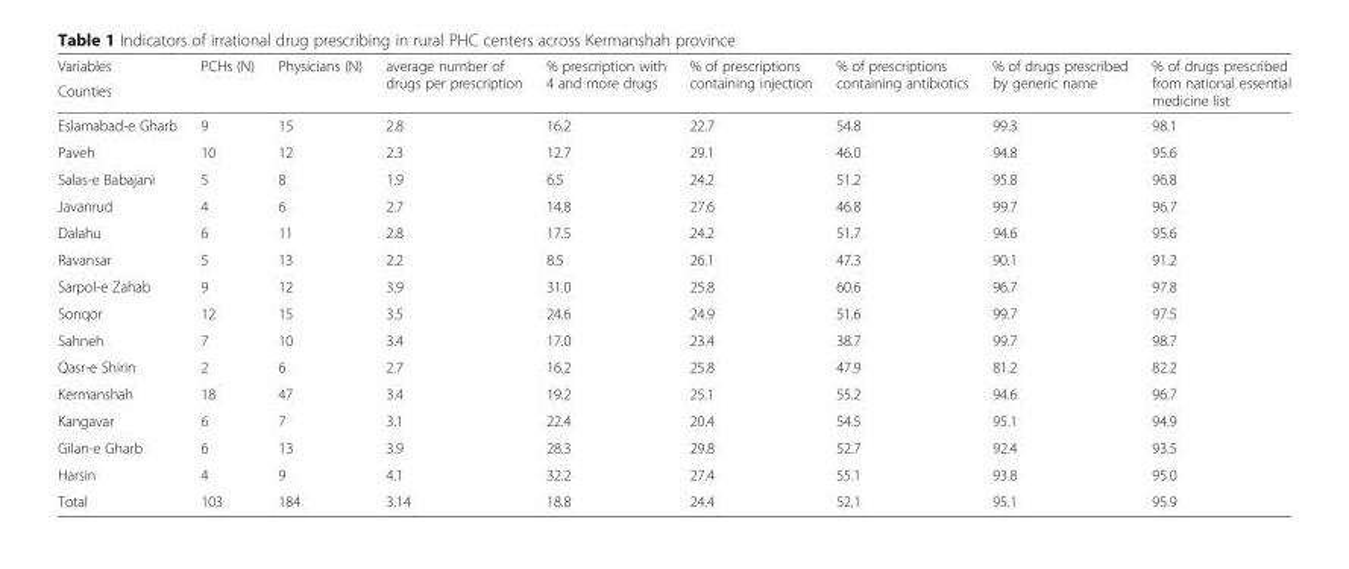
<table><thead><tr><td rowspan="2">Variables Counties</td><td rowspan="2">PCHs (N)</td><td rowspan="2">Physicians (N)</td><td rowspan="2">average number of drugs per prescription</td><td rowspan="2">% prescription with 4 and more drugs</td><td rowspan="2">% of prescriptions containing injection</td><td rowspan="2">% of prescriptions containing antibiotics</td><td rowspan="2">% of drugs prescribed by generic name</td><td rowspan="2">% of drugs prescribed from national essential medicine list</td></tr><tr></tr></thead><tbody><tr><td>Eslamabad-e Gharb</td><td>9</td><td>15</td><td>2.8</td><td>16.2</td><td>22.7</td><td>54.8</td><td>99.3</td><td>98.1</td></tr><tr><td>Paveh</td><td>10</td><td>12</td><td>2.3</td><td>12.7</td><td>29.1</td><td>46.0</td><td>94.8</td><td>95.6</td></tr><tr><td>Salas-e Babajani</td><td>5</td><td>8</td><td>1.9</td><td>6.5</td><td>24.2</td><td>51.2</td><td>95.8</td><td>96.8</td></tr><tr><td>Javanrud</td><td>4</td><td>6</td><td>2.7</td><td>14.8</td><td>27.6</td><td>46.8</td><td>99.7</td><td>96.7</td></tr><tr><td>Dalahu</td><td>6</td><td>11</td><td>2.8</td><td>17.5</td><td>24.2</td><td>51.7</td><td>94.6</td><td>95.6</td></tr><tr><td>Ravansar</td><td>5</td><td>13</td><td>2.2</td><td>8.5</td><td>26.1</td><td>47.3</td><td>90.1</td><td>91.2</td></tr><tr><td>Sarpol-e Zahab</td><td>9</td><td>12</td><td>3.9</td><td>31.0</td><td>25.8</td><td>60.6</td><td>96.7</td><td>97.8</td></tr><tr><td>Sonqor</td><td>12</td><td>15</td><td>3.5</td><td>24.6</td><td>24.9</td><td>51.6</td><td>99.7</td><td>97.5</td></tr><tr><td>Sahneh</td><td>7</td><td>10</td><td>3.4</td><td>17.0</td><td>23.4</td><td>38.7</td><td>99.7</td><td>98.7</td></tr><tr><td>Qasr-e Shirin</td><td>2</td><td>6</td><td>2.7</td><td>16.2</td><td>25.8</td><td>47.9</td><td>81.2</td><td>82.2</td></tr><tr><td>Kermanshah</td><td>18</td><td>47</td><td>3.4</td><td>19.2</td><td>25.1</td><td>55.2</td><td>94.6</td><td>96.7</td></tr><tr><td>Kangavar</td><td>6</td><td>7</td><td>3.1</td><td>22.4</td><td>20.4</td><td>54.5</td><td>95.1</td><td>94.9</td></tr><tr><td>Gilan-e Gharb</td><td>6</td><td>13</td><td>3.9</td><td>28.3</td><td>29.8</td><td>52.7</td><td>92.4</td><td>93.5</td></tr><tr><td>Harsin</td><td>4</td><td>9</td><td>4.1</td><td>32.2</td><td>27.4</td><td>55.1</td><td>93.8</td><td>95.0</td></tr><tr><td>Total</td><td>103</td><td>184</td><td>3.14</td><td>18.8</td><td>24.4</td><td>52.1</td><td>95.1</td><td>95.9</td></tr></tbody></table>